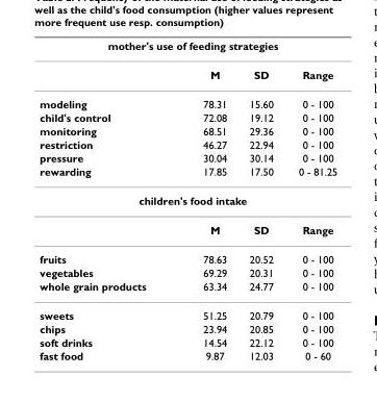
<table><thead><tr><td colspan="4">mother&#x27;s use of feeding strategies</td></tr><tr><td></td><td>M</td><td>SD</td><td>Range</td></tr></thead><tbody><tr><td>modeling</td><td>78.31</td><td>15.60</td><td>0 - 100</td></tr><tr><td>child&#x27;s control</td><td>72.08</td><td>19.12</td><td>0 - 100</td></tr><tr><td>monitoring</td><td>68.51</td><td>29.36</td><td>0 - 100</td></tr><tr><td>restriction</td><td>46.27</td><td>22.94</td><td>0 - 100</td></tr><tr><td>pressure</td><td>30.04</td><td>30.14</td><td>0 - 100</td></tr><tr><td>rewarding</td><td>17.85</td><td>17.50</td><td>0 - 81.25</td></tr><tr><td colspan="4">children&#x27;s food intake</td></tr><tr><td></td><td>M</td><td>SD</td><td>Range</td></tr><tr><td>fruits</td><td>78.63</td><td>20.52</td><td>0 - 100</td></tr><tr><td>vegetables</td><td>69.29</td><td>20.31</td><td>0 - 100</td></tr><tr><td>whole grain products</td><td>63.34</td><td>24.77</td><td>0 - 100</td></tr><tr><td>sweets</td><td>51.25</td><td>20.79</td><td>0 - 100</td></tr><tr><td>chips</td><td>23.94</td><td>20.85</td><td>0 - 100</td></tr><tr><td>soft drinks</td><td>14.54</td><td>22.12</td><td>0 - 100</td></tr><tr><td>fast food</td><td>9.87</td><td>12.03</td><td>0 - 60</td></tr></tbody></table>